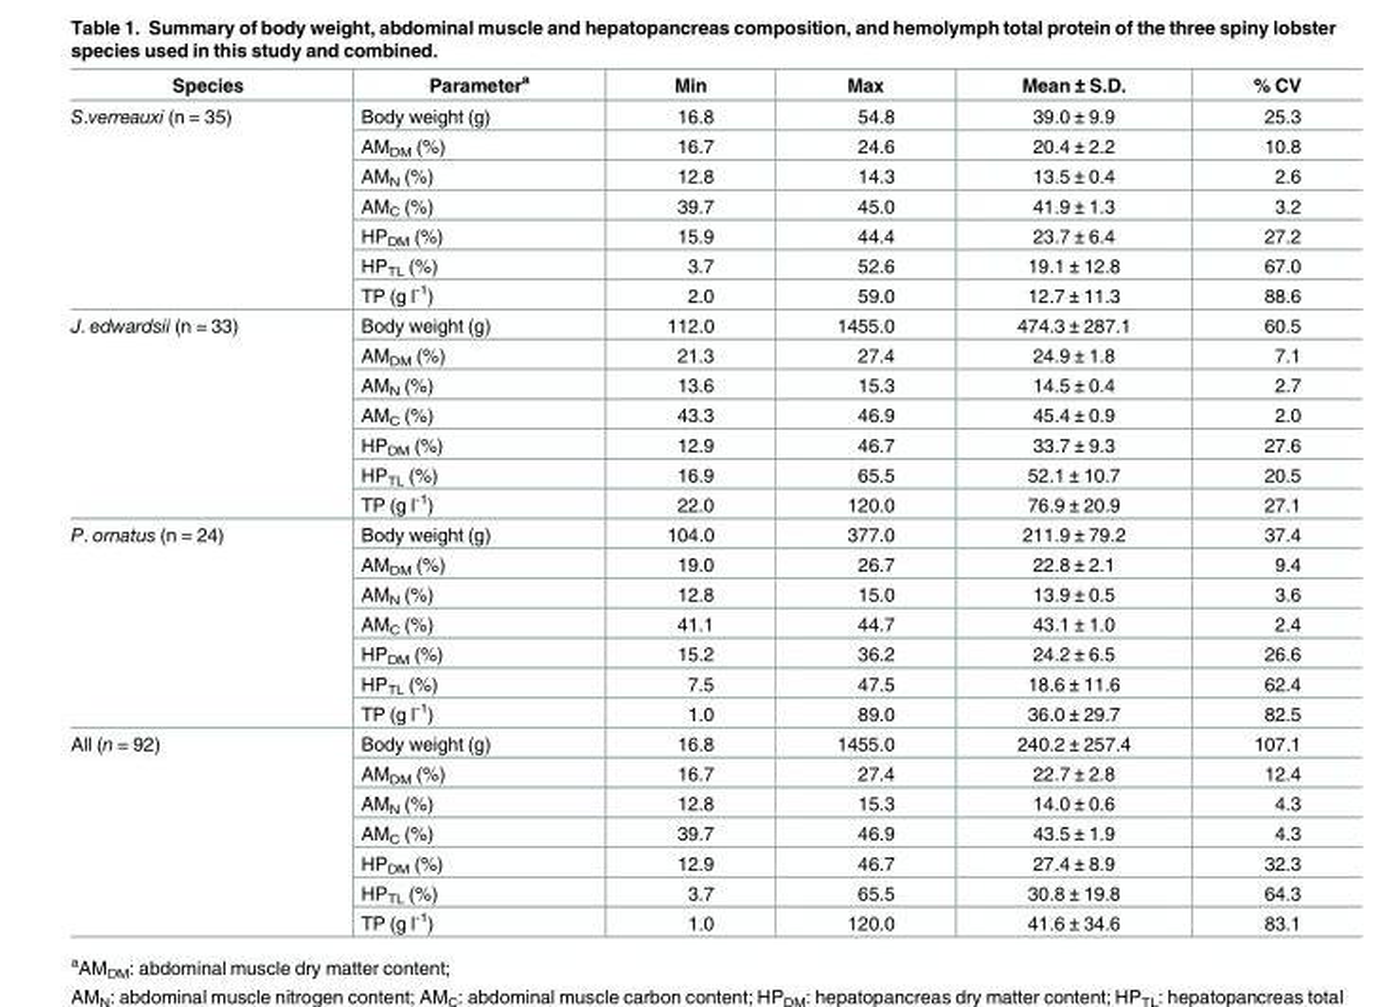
<table><thead><tr><td>Species</td><td>Parameter<sup>a</sup></td><td>Min</td><td>Max</td><td>Mean ± S.D.</td><td>% CV</td></tr></thead><tbody><tr><td rowspan="7">S.verreauxi (n = 35)</td><td>Body weight (g)</td><td>16.8</td><td>54.8</td><td>39.0 ± 9.9</td><td>25.3</td></tr><tr><td>AM<sub>DM</sub> (%)</td><td>16.7</td><td>24.6</td><td>20.4 ± 2.2</td><td>10.8</td></tr><tr><td>AM<sub>N</sub> (%)</td><td>12.8</td><td>14.3</td><td>13.5 ± 0.4</td><td>2.6</td></tr><tr><td>AM<sub>C</sub> (%)</td><td>39.7</td><td>45.0</td><td>41.9 ± 1.3</td><td>3.2</td></tr><tr><td>HP<sub>DM</sub> (%)</td><td>15.9</td><td>44.4</td><td>23.7 ± 6.4</td><td>27.2</td></tr><tr><td>HP<sub>TL</sub> (%)</td><td>3.7</td><td>52.6</td><td>19.1 ± 12.8</td><td>67.0</td></tr><tr><td>TP (g l<sup>-1</sup>)</td><td>2.0</td><td>59.0</td><td>12.7 ± 11.3</td><td>88.6</td></tr><tr><td rowspan="7">J. edwardsii (n = 33)</td><td>Body weight (g)</td><td>112.0</td><td>1455.0</td><td>474.3 ± 287.1</td><td>60.5</td></tr><tr><td>AM<sub>DM</sub> (%)</td><td>21.3</td><td>27.4</td><td>24.9 ± 1.8</td><td>7.1</td></tr><tr><td>AM<sub>N</sub> (%)</td><td>13.6</td><td>15.3</td><td>14.5 ± 0.4</td><td>2.7</td></tr><tr><td>AM<sub>C</sub> (%)</td><td>43.3</td><td>46.9</td><td>45.4 ± 0.9</td><td>2.0</td></tr><tr><td>HP<sub>DM</sub> (%)</td><td>12.9</td><td>46.7</td><td>33.7 ± 9.3</td><td>27.6</td></tr><tr><td>HP<sub>TL</sub> (%)</td><td>16.9</td><td>65.5</td><td>52.1 ± 10.7</td><td>20.5</td></tr><tr><td>TP (g l<sup>-1</sup>)</td><td>22.0</td><td>120.0</td><td>76.9 ± 20.9</td><td>27.1</td></tr><tr><td rowspan="7">P. ornatus (n = 24)</td><td>Body weight (g)</td><td>104.0</td><td>377.0</td><td>211.9 ± 79.2</td><td>37.4</td></tr><tr><td>AM<sub>DM</sub> (%)</td><td>19.0</td><td>26.7</td><td>22.8 ± 2.1</td><td>9.4</td></tr><tr><td>AM<sub>N</sub> (%)</td><td>12.8</td><td>15.0</td><td>13.9 ± 0.5</td><td>3.6</td></tr><tr><td>AM<sub>C</sub> (%)</td><td>41.1</td><td>44.7</td><td>43.1 ± 1.0</td><td>2.4</td></tr><tr><td>HP<sub>DM</sub> (%)</td><td>15.2</td><td>36.2</td><td>24.2 ± 6.5</td><td>26.6</td></tr><tr><td>HP<sub>TL</sub> (%)</td><td>7.5</td><td>47.5</td><td>18.6 ± 11.6</td><td>62.4</td></tr><tr><td>TP (g l<sup>-1</sup>)</td><td>1.0</td><td>89.0</td><td>36.0 ± 29.7</td><td>82.5</td></tr><tr><td rowspan="7">All (n = 92)</td><td>Body weight (g)</td><td>16.8</td><td>1455.0</td><td>240.2 ± 257.4</td><td>107.1</td></tr><tr><td>AM<sub>DM</sub> (%)</td><td>16.7</td><td>27.4</td><td>22.7 ± 2.8</td><td>12.4</td></tr><tr><td>AM<sub>N</sub> (%)</td><td>12.8</td><td>15.3</td><td>14.0 ± 0.6</td><td>4.3</td></tr><tr><td>AM<sub>C</sub> (%)</td><td>39.7</td><td>46.9</td><td>43.5 ± 1.9</td><td>4.3</td></tr><tr><td>HP<sub>DM</sub> (%)</td><td>12.9</td><td>46.7</td><td>27.4 ± 8.9</td><td>32.3</td></tr><tr><td>HP<sub>TL</sub> (%)</td><td>3.7</td><td>65.5</td><td>30.8 ± 19.8</td><td>64.3</td></tr><tr><td>TP (g l<sup>-1</sup>)</td><td>1.0</td><td>120.0</td><td>41.6 ± 34.6</td><td>83.1</td></tr></tbody></table>